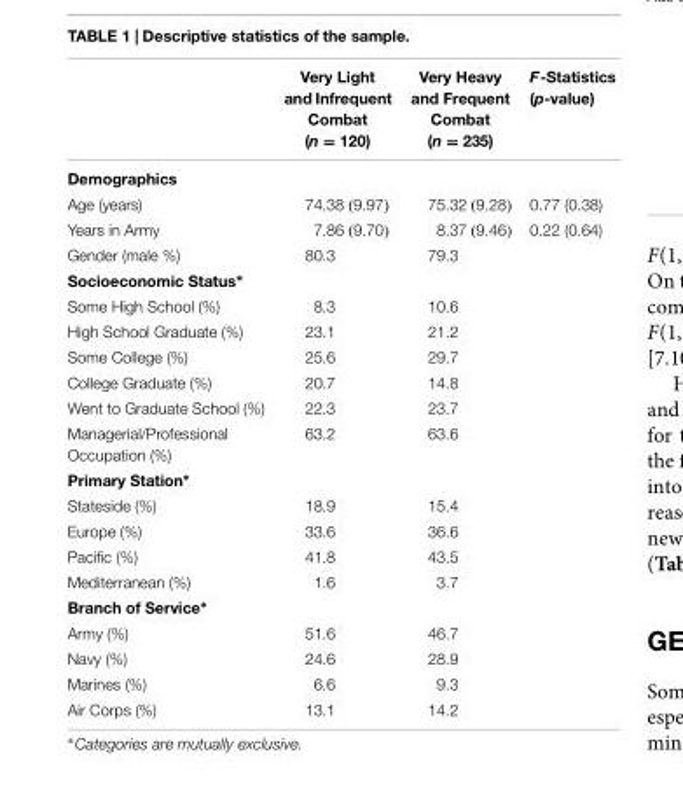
<table><thead><tr><td></td><td>Very Light and Infrequent Combat (n = 120)</td><td>Very Heavy and Frequent Combat (n = 235)</td><td>F-Statistics (p-value)</td></tr></thead><tbody><tr><td colspan="4">Demographics</td></tr><tr><td>Age (years)</td><td>74.38 (9.97)</td><td>75.32 (9.28)</td><td>0.77 (0.38)</td></tr><tr><td>Years in Army</td><td>7.86 (9.70)</td><td>8.37 (9.46)</td><td>0.22 (0.64)</td></tr><tr><td>Gender (male %)</td><td>80.3</td><td>79.3</td><td></td></tr><tr><td colspan="4">Socioeconomic Status∗</td></tr><tr><td>Some High School (%)</td><td>8.3</td><td>10.6</td><td></td></tr><tr><td>High School Graduate (%)</td><td>23.1</td><td>21.2</td><td></td></tr><tr><td>Some College (%)</td><td>25.6</td><td>29.7</td><td></td></tr><tr><td>College Graduate (%)</td><td>20.7</td><td>14.8</td><td></td></tr><tr><td>Went to Graduate School (%)</td><td>22.3</td><td>23.7</td><td></td></tr><tr><td>Managerial/Professional Occupation (%)</td><td>63.2</td><td>63.6</td><td></td></tr><tr><td colspan="4">Primary Station∗</td></tr><tr><td>Stateside (%)</td><td>18.9</td><td>15.4</td><td></td></tr><tr><td>Europe (%)</td><td>33.6</td><td>36.6</td><td></td></tr><tr><td>Pacific (%)</td><td>41.8</td><td>43.5</td><td></td></tr><tr><td>Mediterranean (%)</td><td>1.6</td><td>3.7</td><td></td></tr><tr><td colspan="4">Branch of Service∗</td></tr><tr><td>Army (%)</td><td>51.6</td><td>46.7</td><td></td></tr><tr><td>Navy (%)</td><td>24.6</td><td>28.9</td><td></td></tr><tr><td>Marines (%)</td><td>6.6</td><td>9.3</td><td></td></tr><tr><td>Air Corps (%)</td><td>13.1</td><td>14.2</td><td></td></tr></tbody></table>